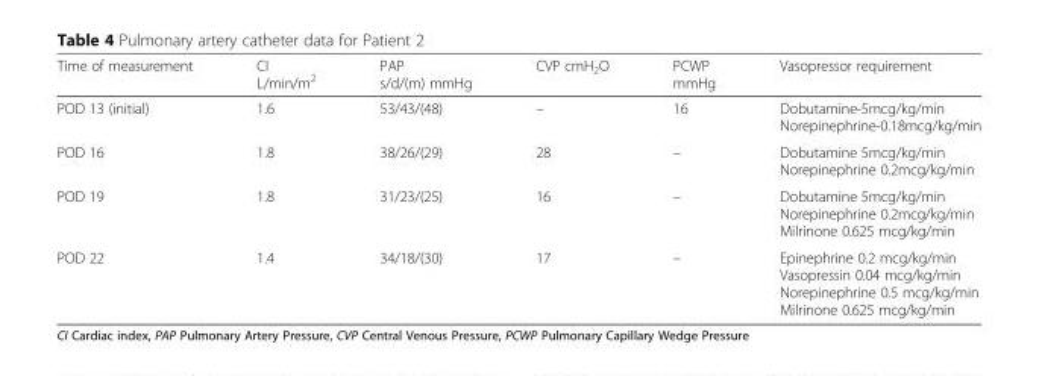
<table><thead><tr><td>Time of measurement</td><td>CI L/min/m<sup>2</sup></td><td>PAP s/d/(m) mmHg</td><td>CVP cmH<sub>2</sub>O</td><td>PCWP mmHg</td><td>Vasopressor requirement</td></tr></thead><tbody><tr><td>POD 13 (initial)</td><td>1.6</td><td>53/43/(48)</td><td>–</td><td>16</td><td>Dobutamine-5mcg/kg/min Norepinephrine-0.18mcg/kg/min</td></tr><tr><td>POD 16</td><td>1.8</td><td>38/26/(29)</td><td>28</td><td>–</td><td>Dobutamine 5mcg/kg/min Norepinephrine 0.2mcg/kg/min</td></tr><tr><td>POD 19</td><td>1.8</td><td>31/23/(25)</td><td>16</td><td>–</td><td>Dobutamine 5mcg/kg/min Norepinephrine 0.2mcg/kg/min Milrinone 0.625 mcg/kg/min</td></tr><tr><td>POD 22</td><td>1.4</td><td>34/18/(30)</td><td>17</td><td>–</td><td>Epinephrine 0.2 mcg/kg/min Vasopressin 0.04 mcg/kg/min Norepinephrine 0.5 mcg/kg/min Milrinone 0.625 mcg/kg/min</td></tr></tbody></table>